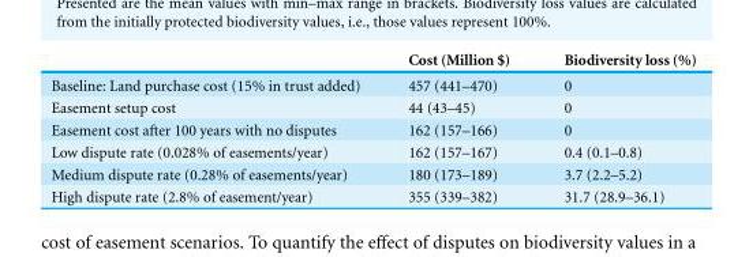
<table><thead><tr><td></td><td>Cost (Million $)</td><td>Biodiversity loss (%)</td></tr></thead><tbody><tr><td>Baseline: Land purchase cost (15% in trust added)</td><td>457 (441–470)</td><td>0</td></tr><tr><td>Easement setup cost</td><td>44 (43–45)</td><td>0</td></tr><tr><td>Easement cost after 100 years with no disputes</td><td>162 (157–166)</td><td>0</td></tr><tr><td>Low dispute rate (0.028% of easements/year)</td><td>162 (157–167)</td><td>0.4 (0.1–0.8)</td></tr><tr><td>Medium dispute rate (0.28% of easements/year)</td><td>180 (173–189)</td><td>3.7 (2.2–5.2)</td></tr><tr><td>High dispute rate (2.8% of easement/year)</td><td>355 (339–382)</td><td>31.7 (28.9–36.1)</td></tr></tbody></table>